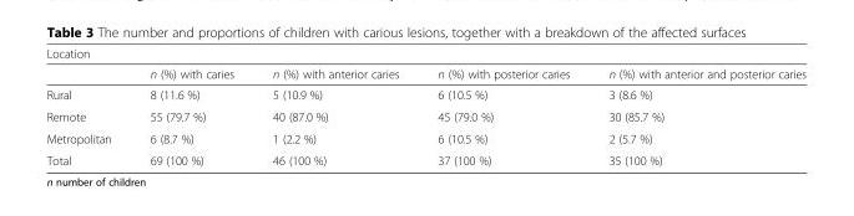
<table><thead><tr><td colspan="5">Location</td></tr><tr><td></td><td>n (%) with caries</td><td>n (%) with anterior caries</td><td>n (%) with posterior caries</td><td>n (%) with anterior and posterior caries</td></tr></thead><tbody><tr><td>Rural</td><td>8 (11.6 %)</td><td>5 (10.9 %)</td><td>6 (10.5 %)</td><td>3 (8.6 %)</td></tr><tr><td>Remote</td><td>55 (79.7 %)</td><td>40 (87.0 %)</td><td>45 (79.0 %)</td><td>30 (85.7 %)</td></tr><tr><td>Metropolitan</td><td>6 (8.7 %)</td><td>1 (2.2 %)</td><td>6 (10.5 %)</td><td>2 (5.7 %)</td></tr><tr><td>Total</td><td>69 (100 %)</td><td>46 (100 %)</td><td>37 (100 %)</td><td>35 (100 %)</td></tr></tbody></table>